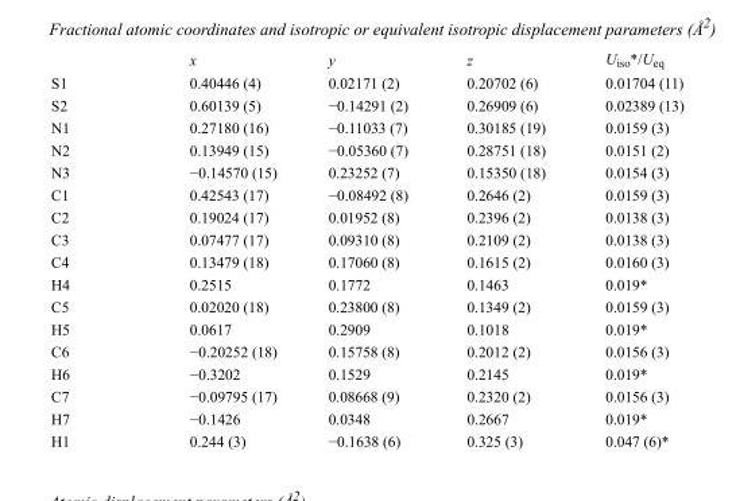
<table><thead><tr><td></td><td>x</td><td>y</td><td>z</td><td>U<sub>iso</sub>*/U<sub>eq</sub></td></tr></thead><tbody><tr><td>S1</td><td>0.40446 (4)</td><td>0.02171 (2)</td><td>0.20702 (6)</td><td>0.01704 (11)</td></tr><tr><td>S2</td><td>0.60139 (5)</td><td>−0.14291 (2)</td><td>0.26909 (6)</td><td>0.02389 (13)</td></tr><tr><td>N1</td><td>0.27180 (16)</td><td>−0.11033 (7)</td><td>0.30185 (19)</td><td>0.0159 (3)</td></tr><tr><td>N2</td><td>0.13949 (15)</td><td>−0.05360 (7)</td><td>0.28751 (18)</td><td>0.0151 (2)</td></tr><tr><td>N3</td><td>−0.14570 (15)</td><td>0.23252 (7)</td><td>0.15350 (18)</td><td>0.0154 (3)</td></tr><tr><td>C1</td><td>0.42543 (17)</td><td>−0.08492 (8)</td><td>0.2646 (2)</td><td>0.0159 (3)</td></tr><tr><td>C2</td><td>0.19024 (17)</td><td>0.01952 (8)</td><td>0.2396 (2)</td><td>0.0138 (3)</td></tr><tr><td>C3</td><td>0.07477 (17)</td><td>0.09310 (8)</td><td>0.2109 (2)</td><td>0.0138 (3)</td></tr><tr><td>C4</td><td>0.13479 (18)</td><td>0.17060 (8)</td><td>0.1615 (2)</td><td>0.0160 (3)</td></tr><tr><td>H4</td><td>0.2515</td><td>0.1772</td><td>0.1463</td><td>0.019*</td></tr><tr><td>C5</td><td>0.02020 (18)</td><td>0.23800 (8)</td><td>0.1349 (2)</td><td>0.0159 (3)</td></tr><tr><td>H5</td><td>0.0617</td><td>0.2909</td><td>0.1018</td><td>0.019*</td></tr><tr><td>C6</td><td>−0.20252 (18)</td><td>0.15758 (8)</td><td>0.2012 (2)</td><td>0.0156 (3)</td></tr><tr><td>H6</td><td>−0.3202</td><td>0.1529</td><td>0.2145</td><td>0.019*</td></tr><tr><td>C7</td><td>−0.09795 (17)</td><td>0.08668 (9)</td><td>0.2320 (2)</td><td>0.0156 (3)</td></tr><tr><td>H7</td><td>−0.1426</td><td>0.0348</td><td>0.2667</td><td>0.019*</td></tr><tr><td>H1</td><td>0.244 (3)</td><td>−0.1638 (6)</td><td>0.325 (3)</td><td>0.047 (6)*</td></tr></tbody></table>